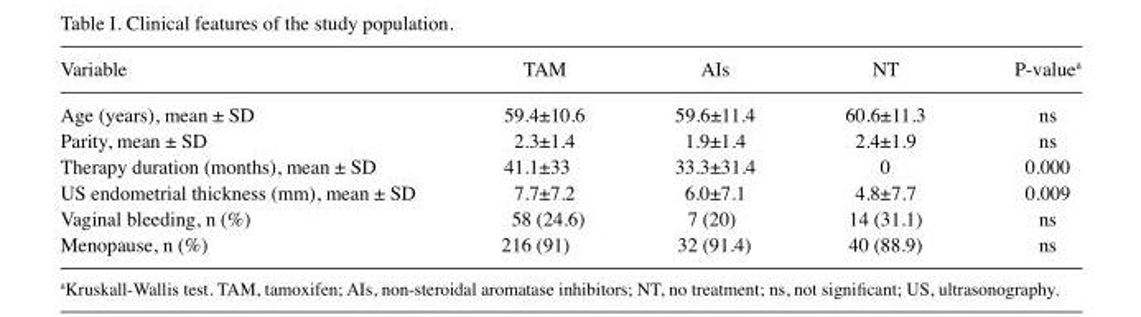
<table><thead><tr><td>Variable</td><td>TAM</td><td>AIs</td><td>NT</td><td>P-value<sup>a</sup></td></tr></thead><tbody><tr><td>Age (years), mean ± SD</td><td>59.4±10.6</td><td>59.6±11.4</td><td>60.6±11.3</td><td>ns</td></tr><tr><td>Parity, mean ± SD</td><td>2.3±1.4</td><td>1.9±1.4</td><td>2.4±1.9</td><td>ns</td></tr><tr><td>Therapy duration (months), mean ± SD</td><td>41.1±33</td><td>33.3±31.4</td><td>0</td><td>0.000</td></tr><tr><td>US endometrial thickness (mm), mean ± SD</td><td>7.7±7.2</td><td>6.0±7.1</td><td>4.8±7.7</td><td>0.009</td></tr><tr><td>Vaginal bleeding, n (%)</td><td>58 (24.6)</td><td>7 (20)</td><td>14 (31.1)</td><td>ns</td></tr><tr><td>Menopause, n (%)</td><td>216 (91)</td><td>32 (91.4)</td><td>40 (88.9)</td><td>ns</td></tr></tbody></table>